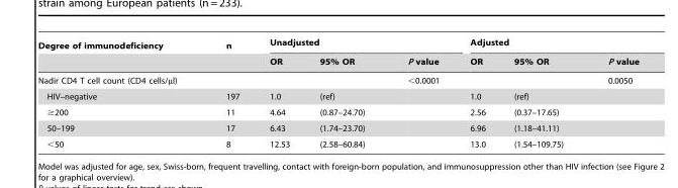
<table><thead><tr><td rowspan="2">Degree of immunodeficiency</td><td rowspan="2">n</td><td colspan="3">Unadjusted</td><td colspan="3">Adjusted</td></tr><tr><td>OR</td><td>95% OR</td><td>P value</td><td>OR</td><td>95% OR</td><td>P value</td></tr></thead><tbody><tr><td>Nadir CD4 T cell count (CD4 cells/µl)</td><td></td><td></td><td></td><td>&lt;0.0001</td><td></td><td></td><td>0.0050</td></tr><tr><td>HIV–negative</td><td>197</td><td>1.0</td><td>(ref)</td><td></td><td>1.0</td><td>(ref)</td><td></td></tr><tr><td>≥200</td><td>11</td><td>4.64</td><td>(0.87–24.70)</td><td></td><td>2.56</td><td>(0.37–17.65)</td><td></td></tr><tr><td>50–199</td><td>17</td><td>6.43</td><td>(1.74–23.70)</td><td></td><td>6.96</td><td>(1.18–41.11)</td><td></td></tr><tr><td>&lt;50</td><td>8</td><td>12.53</td><td>(2.58–60.84)</td><td></td><td>13.0</td><td>(1.54–109.75)</td><td></td></tr></tbody></table>